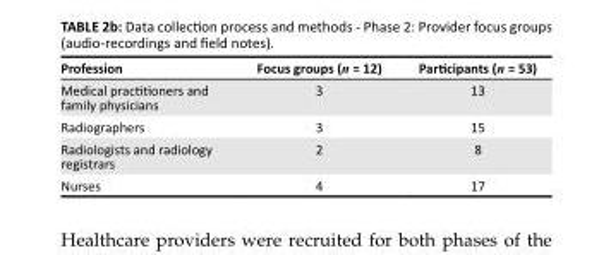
<table><thead><tr><td>Profession</td><td>Focus groups (n = 12)</td><td>Participants (n = 53)</td></tr></thead><tbody><tr><td>Medical practitioners and family physicians</td><td>3</td><td>13</td></tr><tr><td>Radiographers</td><td>3</td><td>15</td></tr><tr><td>Radiologists and radiology registrars</td><td>2</td><td>8</td></tr><tr><td>Nurses</td><td>4</td><td>17</td></tr></tbody></table>